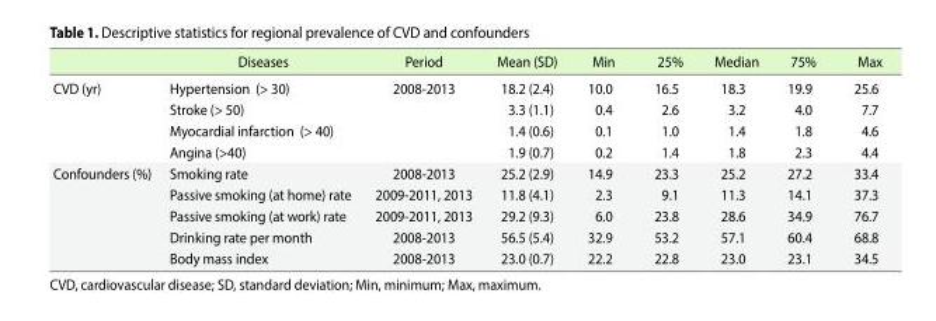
<table><thead><tr><td></td><td>Diseases</td><td>Period</td><td>Mean (SD)</td><td>Min</td><td>25%</td><td>Median</td><td>75%</td><td>Max</td></tr></thead><tbody><tr><td rowspan="4">CVD (yr)</td><td>Hypertension (&gt; 30)</td><td>2008-2013</td><td>18.2 (2.4)</td><td>10.0</td><td>16.5</td><td>18.3</td><td>19.9</td><td>25.6</td></tr><tr><td>Stroke (&gt; 50)</td><td></td><td>3.3 (1.1)</td><td>0.4</td><td>2.6</td><td>3.2</td><td>4.0</td><td>7.7</td></tr><tr><td>Myocardial infarction (&gt; 40)</td><td></td><td>1.4 (0.6)</td><td>0.1</td><td>1.0</td><td>1.4</td><td>1.8</td><td>4.6</td></tr><tr><td>Angina (&gt;40)</td><td></td><td>1.9 (0.7)</td><td>0.2</td><td>1.4</td><td>1.8</td><td>2.3</td><td>4.4</td></tr><tr><td rowspan="5">Confounders (%)</td><td>Smoking rate</td><td>2008-2013</td><td>25.2 (2.9)</td><td>14.9</td><td>23.3</td><td>25.2</td><td>27.2</td><td>33.4</td></tr><tr><td>Passive smoking (at home) rate</td><td>2009-2011, 2013</td><td>11.8 (4.1)</td><td>2.3</td><td>9.1</td><td>11.3</td><td>14.1</td><td>37.3</td></tr><tr><td>Passive smoking (at work) rate</td><td>2009-2011, 2013</td><td>29.2 (9.3)</td><td>6.0</td><td>23.8</td><td>28.6</td><td>34.9</td><td>76.7</td></tr><tr><td>Drinking rate per month</td><td>2008-2013</td><td>56.5 (5.4)</td><td>32.9</td><td>53.2</td><td>57.1</td><td>60.4</td><td>68.8</td></tr><tr><td>Body mass index</td><td>2008-2013</td><td>23.0 (0.7)</td><td>22.2</td><td>22.8</td><td>23.0</td><td>23.1</td><td>34.5</td></tr></tbody></table>